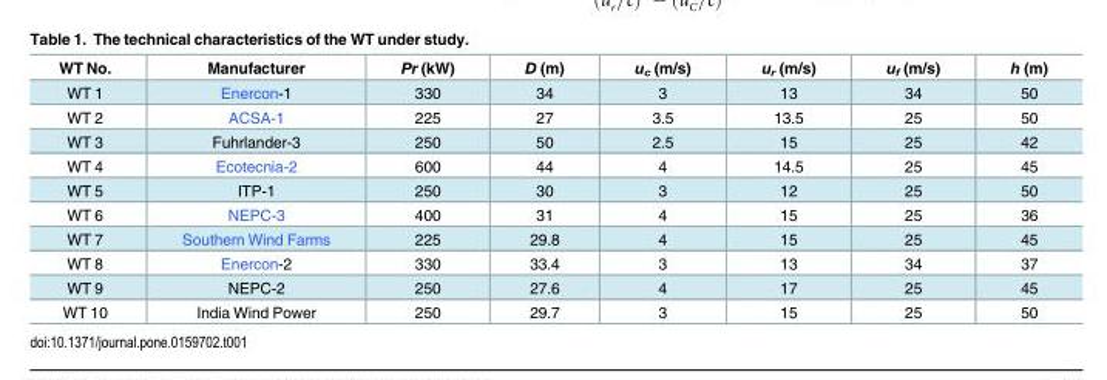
<table><thead><tr><td>WT No.</td><td>Manufacturer</td><td>Pr (kW)</td><td>D (m)</td><td>u<sub>c</sub> (m/s)</td><td>u<sub>r</sub> (m/s)</td><td>u<sub>f</sub> (m/s)</td><td>h (m)</td></tr></thead><tbody><tr><td>WT 1</td><td>Enercon-1</td><td>330</td><td>34</td><td>3</td><td>13</td><td>34</td><td>50</td></tr><tr><td>WT 2</td><td>ACSA-1</td><td>225</td><td>27</td><td>3.5</td><td>13.5</td><td>25</td><td>50</td></tr><tr><td>WT 3</td><td>Fuhrlander-3</td><td>250</td><td>50</td><td>2.5</td><td>15</td><td>25</td><td>42</td></tr><tr><td>WT 4</td><td>Ecotecnia-2</td><td>600</td><td>44</td><td>4</td><td>14.5</td><td>25</td><td>45</td></tr><tr><td>WT 5</td><td>ITP-1</td><td>250</td><td>30</td><td>3</td><td>12</td><td>25</td><td>50</td></tr><tr><td>WT 6</td><td>NEPC-3</td><td>400</td><td>31</td><td>4</td><td>15</td><td>25</td><td>36</td></tr><tr><td>WT 7</td><td>Southern Wind Farms</td><td>225</td><td>29.8</td><td>4</td><td>15</td><td>25</td><td>45</td></tr><tr><td>WT 8</td><td>Enercon-2</td><td>330</td><td>33.4</td><td>3</td><td>13</td><td>34</td><td>37</td></tr><tr><td>WT 9</td><td>NEPC-2</td><td>250</td><td>27.6</td><td>4</td><td>17</td><td>25</td><td>45</td></tr><tr><td>WT 10</td><td>India Wind Power</td><td>250</td><td>29.7</td><td>3</td><td>15</td><td>25</td><td>50</td></tr></tbody></table>